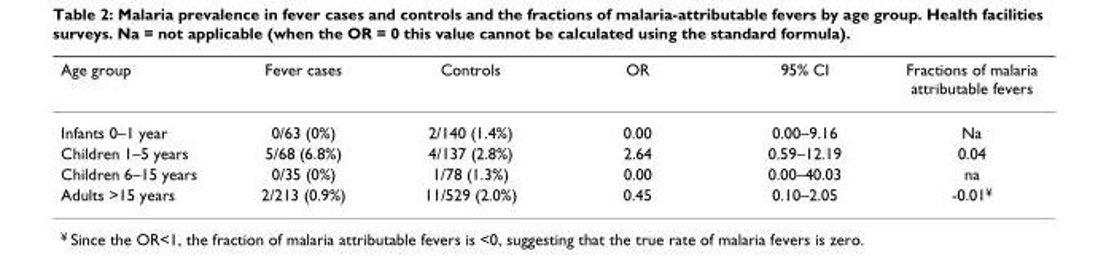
<table><thead><tr><td>Age group</td><td>Fever cases</td><td>Controls</td><td>OR</td><td>95% CI</td><td>Fractions of malaria attributable fevers</td></tr></thead><tbody><tr><td>Infants 0–1 year</td><td>0/63 (0%)</td><td>2/140 (1.4%)</td><td>0.00</td><td>0.00–9.16</td><td>Na</td></tr><tr><td>Children 1–5 years</td><td>5/68 (6.8%)</td><td>4/137 (2.8%)</td><td>2.64</td><td>0.59–12.19</td><td>0.04</td></tr><tr><td>Children 6–15 years</td><td>0/35 (0%)</td><td>1/78 (1.3%)</td><td>0.00</td><td>0.00–40.03</td><td>na</td></tr><tr><td>Adults &gt;15 years</td><td>2/213 (0.9%)</td><td>11/529 (2.0%)</td><td>0.45</td><td>0.10–2.05</td><td>-0.01<sup>¥</sup></td></tr></tbody></table>